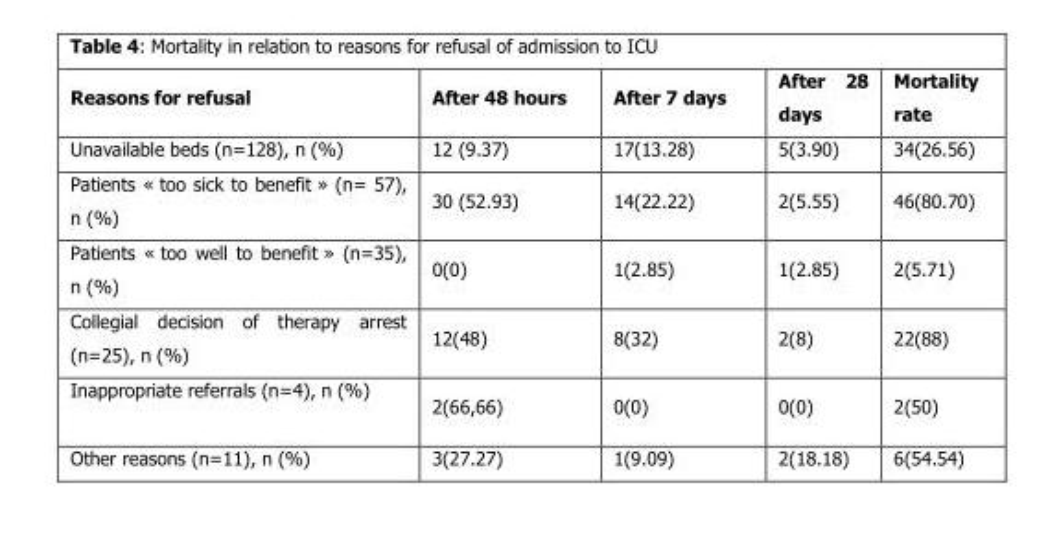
<table><thead><tr><td>Reasons for refusal</td><td>After 48 hours</td><td>After 7 days</td><td>After 28 days</td><td>Mortality rate</td></tr></thead><tbody><tr><td>Unavailable beds (n=128), n (%)</td><td>12 (9.37)</td><td>17(13.28)</td><td>5(3.90)</td><td>34(26.56)</td></tr><tr><td>Patients « too sick to benefit » (n= 57), n (%)</td><td>30 (52.93)</td><td>14(22.22)</td><td>2(5.55)</td><td>46(80.70)</td></tr><tr><td>Patients « too well to benefit » (n=35), n (%)</td><td>0(0)</td><td>1(2.85)</td><td>1(2.85)</td><td>2(5.71)</td></tr><tr><td>Collegial decision of therapy arrest (n=25), n (%)</td><td>12(48)</td><td>8(32)</td><td>2(8)</td><td>22(88)</td></tr><tr><td>Inappropriate referrals (n=4), n (%)</td><td>2(66,66)</td><td>0(0)</td><td>0(0)</td><td>2(50)</td></tr><tr><td>Other reasons (n=11), n (%)</td><td>3(27.27)</td><td>1(9.09)</td><td>2(18.18)</td><td>6(54.54)</td></tr></tbody></table>